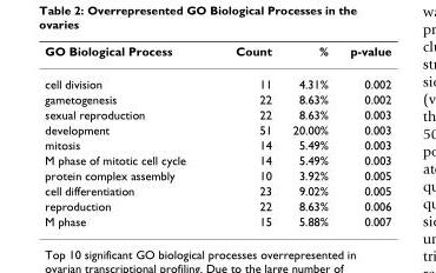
<table><thead><tr><td>GO Biological Process</td><td>Count</td><td>%</td><td>p-value</td></tr></thead><tbody><tr><td>cell division</td><td>11</td><td>4.31%</td><td>0.002</td></tr><tr><td>gametogenesis</td><td>22</td><td>8.63%</td><td>0.002</td></tr><tr><td>sexual reproduction</td><td>22</td><td>8.63%</td><td>0.003</td></tr><tr><td>development</td><td>51</td><td>20.00%</td><td>0.003</td></tr><tr><td>mitosis</td><td>14</td><td>5.49%</td><td>0.003</td></tr><tr><td>M phase of mitotic cell cycle</td><td>14</td><td>5.49%</td><td>0.003</td></tr><tr><td>protein complex assembly</td><td>10</td><td>3.92%</td><td>0.005</td></tr><tr><td>cell differentiation</td><td>23</td><td>9.02%</td><td>0.005</td></tr><tr><td>reproduction</td><td>22</td><td>8.63%</td><td>0.006</td></tr><tr><td>M phase</td><td>15</td><td>5.88%</td><td>0.007</td></tr></tbody></table>